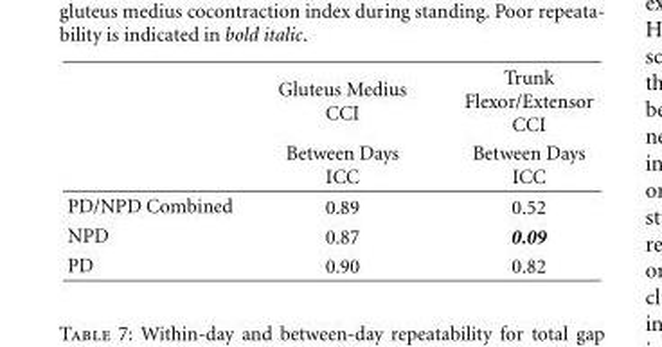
<table><thead><tr><td rowspan="2"></td><td rowspan="2">Gluteus Medius CCI Between Days ICC</td><td rowspan="2">Trunk Flexor/Extensor CCI Between Days ICC</td></tr><tr></tr></thead><tbody><tr><td>PD/NPD Combined</td><td>0.89</td><td>0.52</td></tr><tr><td>NPD</td><td>0.87</td><td>0.09</td></tr><tr><td>PD</td><td>0.90</td><td>0.82</td></tr></tbody></table>